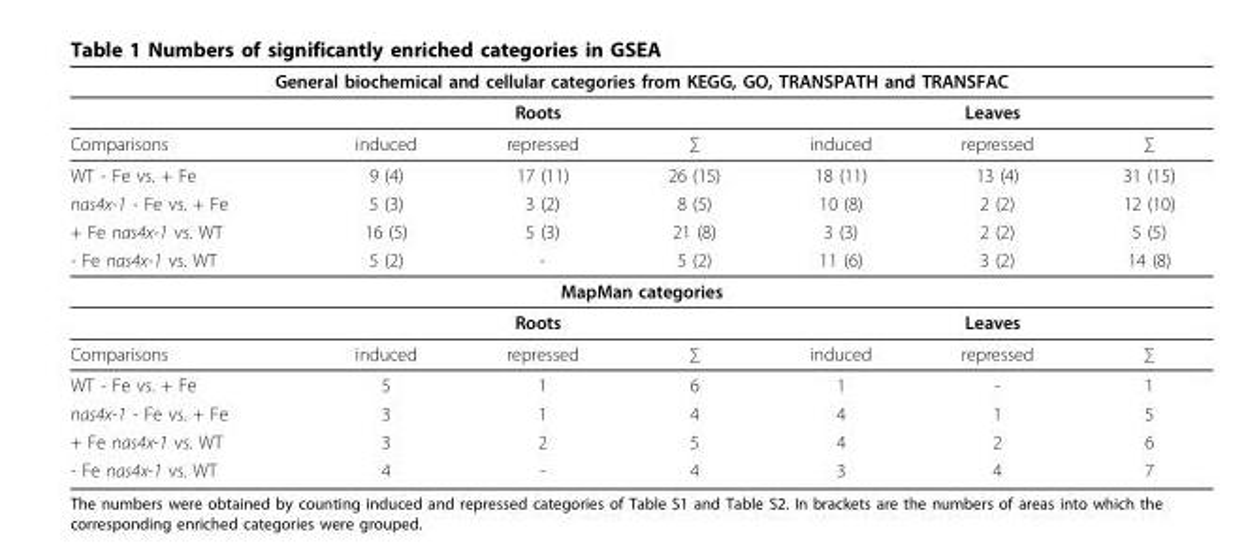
<table><thead><tr><td colspan="7">General biochemical and cellular categories from KEGG, GO, TRANSPATH and TRANSFAC</td></tr><tr><td rowspan="2">Comparisons</td><td colspan="3">Roots</td><td colspan="3">Leaves</td></tr><tr><td>induced</td><td>repressed</td><td>∑</td><td>induced</td><td>repressed</td><td>∑</td></tr></thead><tbody><tr><td>WT - Fe vs. + Fe</td><td>9 (4)</td><td>17 (11)</td><td>26 (15)</td><td>18 (11)</td><td>13 (4)</td><td>31 (15)</td></tr><tr><td>nas4x-1 - Fe vs. + Fe</td><td>5 (3)</td><td>3 (2)</td><td>8 (5)</td><td>10 (8)</td><td>2 (2)</td><td>12 (10)</td></tr><tr><td>+ Fe nas4x-1 vs. WT</td><td>16 (5)</td><td>5 (3)</td><td>21 (8)</td><td>3 (3)</td><td>2 (2)</td><td>5 (5)</td></tr><tr><td>- Fe nas4x-1 vs. WT</td><td>5 (2)</td><td>-</td><td>5 (2)</td><td>11 (6)</td><td>3 (2)</td><td>14 (8)</td></tr><tr><td colspan="7">MapMan categories</td></tr><tr><td></td><td colspan="3">Roots</td><td colspan="3">Leaves</td></tr><tr><td>Comparisons</td><td>induced</td><td>repressed</td><td>∑</td><td>induced</td><td>repressed</td><td>∑</td></tr><tr><td>WT - Fe vs. + Fe</td><td>5</td><td>1</td><td>6</td><td>1</td><td>-</td><td>1</td></tr><tr><td>nas4x-1 - Fe vs. + Fe</td><td>3</td><td>1</td><td>4</td><td>4</td><td>1</td><td>5</td></tr><tr><td>+ Fe nas4x-1 vs. WT</td><td>3</td><td>2</td><td>5</td><td>4</td><td>2</td><td>6</td></tr><tr><td>- Fe nas4x-1 vs. WT</td><td>4</td><td>-</td><td>4</td><td>3</td><td>4</td><td>7</td></tr></tbody></table>